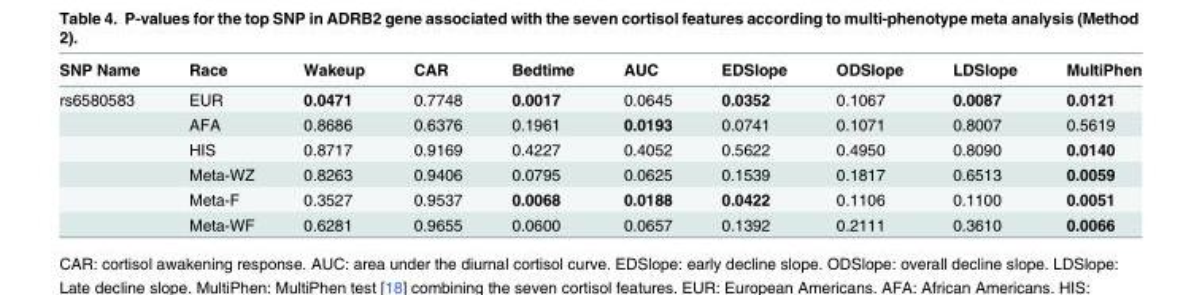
<table><thead><tr><td>SNP Name</td><td>Race</td><td>Wakeup</td><td>CAR</td><td>Bedtime</td><td>AUC</td><td>EDSlope</td><td>ODSlope</td><td>LDSlope</td><td>MultiPhen</td></tr></thead><tbody><tr><td rowspan="6">rs6580583</td><td>EUR</td><td>0.0471</td><td>0.7748</td><td>0.0017</td><td>0.0645</td><td>0.0352</td><td>0.1067</td><td>0.0087</td><td>0.0121</td></tr><tr><td>AFA</td><td>0.8686</td><td>0.6376</td><td>0.1961</td><td>0.0193</td><td>0.0741</td><td>0.1071</td><td>0.8007</td><td>0.5619</td></tr><tr><td>HIS</td><td>0.8717</td><td>0.9169</td><td>0.4227</td><td>0.4052</td><td>0.5622</td><td>0.4950</td><td>0.8090</td><td>0.0140</td></tr><tr><td>Meta-WZ</td><td>0.8263</td><td>0.9406</td><td>0.0795</td><td>0.0625</td><td>0.1539</td><td>0.1817</td><td>0.6513</td><td>0.0059</td></tr><tr><td>Meta-F</td><td>0.3527</td><td>0.9537</td><td>0.0068</td><td>0.0188</td><td>0.0422</td><td>0.1106</td><td>0.1100</td><td>0.0051</td></tr><tr><td>Meta-WF</td><td>0.6281</td><td>0.9655</td><td>0.0600</td><td>0.0657</td><td>0.1392</td><td>0.2111</td><td>0.3610</td><td>0.0066</td></tr></tbody></table>